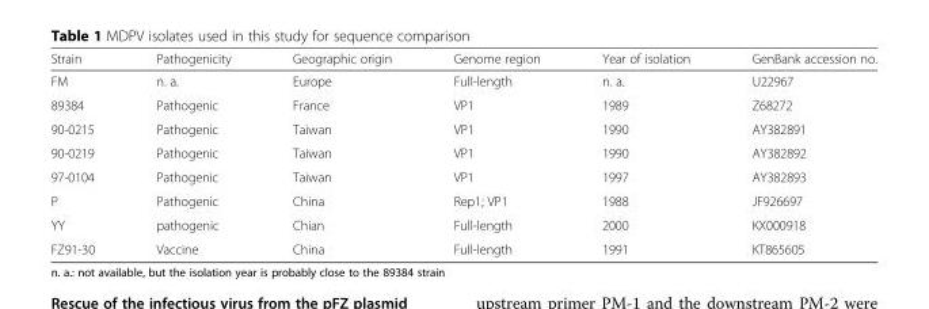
<table><thead><tr><td>Strain</td><td>Pathogenicity</td><td>Geographic origin</td><td>Genome region</td><td>Year of isolation</td><td>GenBank accession no.</td></tr></thead><tbody><tr><td>FM</td><td>n. a.</td><td>Europe</td><td>Full-length</td><td>n. a.</td><td>U22967</td></tr><tr><td>89384</td><td>Pathogenic</td><td>France</td><td>VP1</td><td>1989</td><td>Z68272</td></tr><tr><td>90-0215</td><td>Pathogenic</td><td>Taiwan</td><td>VP1</td><td>1990</td><td>AY382891</td></tr><tr><td>90-0219</td><td>Pathogenic</td><td>Taiwan</td><td>VP1</td><td>1990</td><td>AY382892</td></tr><tr><td>97-0104</td><td>Pathogenic</td><td>Taiwan</td><td>VP1</td><td>1997</td><td>AY382893</td></tr><tr><td>P</td><td>Pathogenic</td><td>China</td><td>Rep1; VP1</td><td>1988</td><td>JF926697</td></tr><tr><td>YY</td><td>pathogenic</td><td>Chian</td><td>Full-length</td><td>2000</td><td>KX000918</td></tr><tr><td>FZ91-30</td><td>Vaccine</td><td>China</td><td>Full-length</td><td>1991</td><td>KT865605</td></tr></tbody></table>